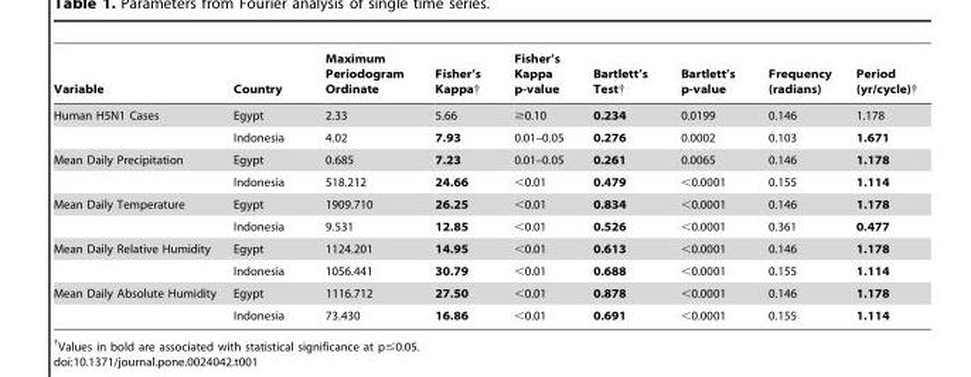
<table><thead><tr><td>Variable</td><td>Country</td><td>Maximum Periodogram Ordinate</td><td>Fisher’s Kappa†</td><td>Fisher’s Kappa p-value</td><td>Bartlett’s Test†</td><td>Bartlett’s p-value</td><td>Frequency (radians)</td><td>Period (yr/cycle)†</td></tr></thead><tbody><tr><td rowspan="2">Human H5N1 Cases</td><td>Egypt</td><td>2.33</td><td>5.66</td><td>≥0.10</td><td>0.234</td><td>0.0199</td><td>0.146</td><td>1.178</td></tr><tr><td>Indonesia</td><td>4.02</td><td>7.93</td><td>0.01–0.05</td><td>0.276</td><td>0.0002</td><td>0.103</td><td>1.671</td></tr><tr><td rowspan="2">Mean Daily Precipitation</td><td>Egypt</td><td>0.685</td><td>7.23</td><td>0.01–0.05</td><td>0.261</td><td>0.0065</td><td>0.146</td><td>1.178</td></tr><tr><td>Indonesia</td><td>518.212</td><td>24.66</td><td>&lt;0.01</td><td>0.479</td><td>&lt;0.0001</td><td>0.155</td><td>1.114</td></tr><tr><td rowspan="2">Mean Daily Temperature</td><td>Egypt</td><td>1909.710</td><td>26.25</td><td>&lt;0.01</td><td>0.834</td><td>&lt;0.0001</td><td>0.146</td><td>1.178</td></tr><tr><td>Indonesia</td><td>9.531</td><td>12.85</td><td>&lt;0.01</td><td>0.526</td><td>&lt;0.0001</td><td>0.361</td><td>0.477</td></tr><tr><td rowspan="2">Mean Daily Relative Humidity</td><td>Egypt</td><td>1124.201</td><td>14.95</td><td>&lt;0.01</td><td>0.613</td><td>&lt;0.0001</td><td>0.146</td><td>1.178</td></tr><tr><td>Indonesia</td><td>1056.441</td><td>30.79</td><td>&lt;0.01</td><td>0.688</td><td>&lt;0.0001</td><td>0.155</td><td>1.114</td></tr><tr><td rowspan="2">Mean Daily Absolute Humidity</td><td>Egypt</td><td>1116.712</td><td>27.50</td><td>&lt;0.01</td><td>0.878</td><td>&lt;0.0001</td><td>0.146</td><td>1.178</td></tr><tr><td>Indonesia</td><td>73.430</td><td>16.86</td><td>&lt;0.01</td><td>0.691</td><td>&lt;0.0001</td><td>0.155</td><td>1.114</td></tr></tbody></table>